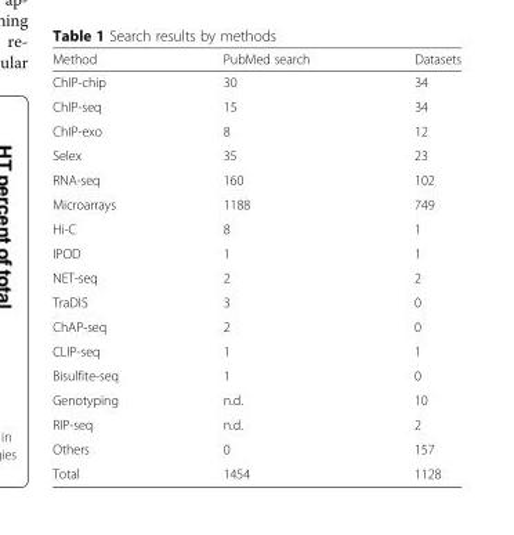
<table><thead><tr><td>Method</td><td>PubMed search</td><td>Datasets</td></tr></thead><tbody><tr><td>ChIP-chip</td><td>30</td><td>34</td></tr><tr><td>ChIP-seq</td><td>15</td><td>34</td></tr><tr><td>ChIP-exo</td><td>8</td><td>12</td></tr><tr><td>Selex</td><td>35</td><td>23</td></tr><tr><td>RNA-seq</td><td>160</td><td>102</td></tr><tr><td>Microarrays</td><td>1188</td><td>749</td></tr><tr><td>Hi-C</td><td>8</td><td>1</td></tr><tr><td>IPOD</td><td>1</td><td>1</td></tr><tr><td>NET-seq</td><td>2</td><td>2</td></tr><tr><td>TraDIS</td><td>3</td><td>0</td></tr><tr><td>ChAP-seq</td><td>2</td><td>0</td></tr><tr><td>CLIP-seq</td><td>1</td><td>1</td></tr><tr><td>Bisulfite-seq</td><td>1</td><td>0</td></tr><tr><td>Genotyping</td><td>n.d.</td><td>10</td></tr><tr><td>RIP-seq</td><td>n.d.</td><td>2</td></tr><tr><td>Others</td><td>0</td><td>157</td></tr><tr><td>Total</td><td>1454</td><td>1128</td></tr></tbody></table>